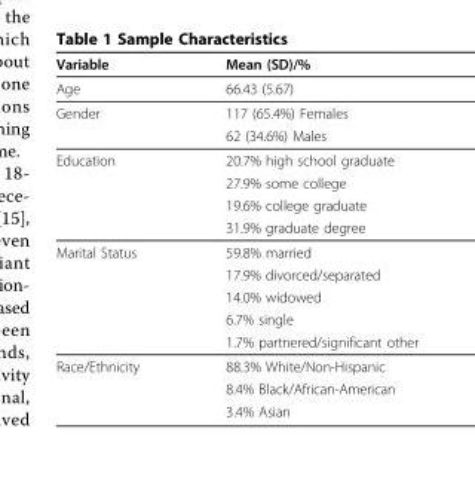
<table><thead><tr><td>Variable</td><td>Mean (SD)/%</td></tr></thead><tbody><tr><td>Age</td><td>66.43 (5.67)</td></tr><tr><td rowspan="2">Gender</td><td>117 (65.4%) Females</td></tr><tr><td>62 (34.6%) Males</td></tr><tr><td rowspan="4">Education</td><td>20.7% high school graduate</td></tr><tr><td>27.9% some college</td></tr><tr><td>19.6% college graduate</td></tr><tr><td>31.9% graduate degree</td></tr><tr><td rowspan="5">Marital Status</td><td>59.8% married</td></tr><tr><td>17.9% divorced/separated</td></tr><tr><td>14.0% widowed</td></tr><tr><td>6.7% single</td></tr><tr><td>1.7% partnered/significant other</td></tr><tr><td rowspan="3">Race/Ethnicity</td><td>88.3% White/Non-Hispanic</td></tr><tr><td>8.4% Black/African-American</td></tr><tr><td>3.4% Asian</td></tr></tbody></table>